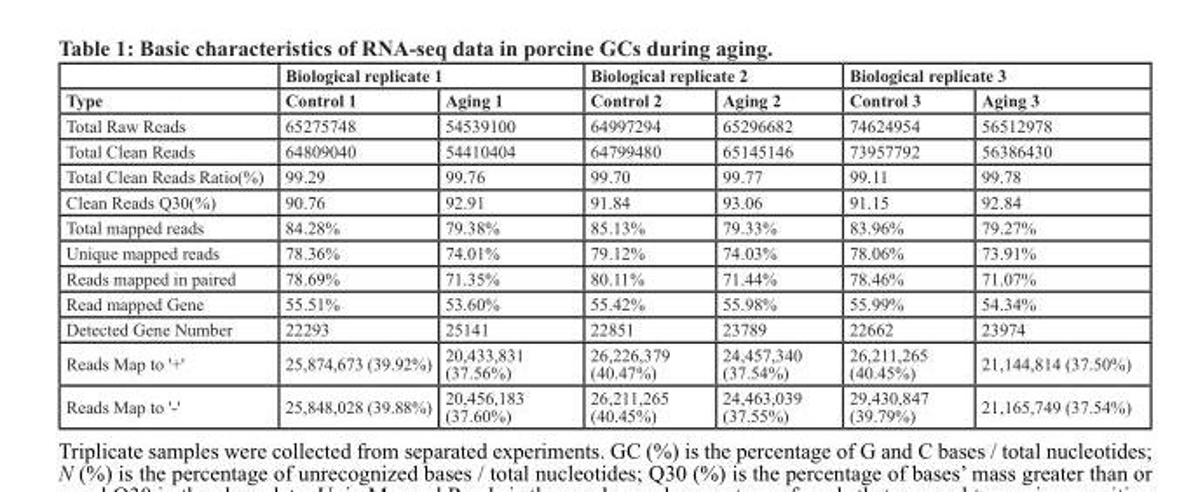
<table><thead><tr><td rowspan="2">Type</td><td colspan="2">Biological replicate 1</td><td colspan="2">Biological replicate 2</td><td colspan="2">Biological replicate 3</td></tr><tr><td>Control 1</td><td>Aging 1</td><td>Control 2</td><td>Aging 2</td><td>Control 3</td><td>Aging 3</td></tr></thead><tbody><tr><td>Total Raw Reads</td><td>65275748</td><td>54539100</td><td>64997294</td><td>65296682</td><td>74624954</td><td>56512978</td></tr><tr><td>Total Clean Reads</td><td>64809040</td><td>54410404</td><td>64799480</td><td>65145146</td><td>73957792</td><td>56386430</td></tr><tr><td>Total Clean Reads Ratio(%)</td><td>99.29</td><td>99.76</td><td>99.70</td><td>99.77</td><td>99.11</td><td>99.78</td></tr><tr><td>Clean Reads Q30(%)</td><td>90.76</td><td>92.91</td><td>91.84</td><td>93.06</td><td>91.15</td><td>92.84</td></tr><tr><td>Total mapped reads</td><td>84.28%</td><td>79.38%</td><td>85.13%</td><td>79.33%</td><td>83.96%</td><td>79.27%</td></tr><tr><td>Unique mapped reads</td><td>78.36%</td><td>74.01%</td><td>79.12%</td><td>74.03%</td><td>78.06%</td><td>73.91%</td></tr><tr><td>Reads mapped in paired</td><td>78.69%</td><td>71.35%</td><td>80.11%</td><td>71.44%</td><td>78.46%</td><td>71.07%</td></tr><tr><td>Read mapped Gene</td><td>55.51%</td><td>53.60%</td><td>55.42%</td><td>55.98%</td><td>55.99%</td><td>54.34%</td></tr><tr><td>Detected Gene Number</td><td>22293</td><td>25141</td><td>22851</td><td>23789</td><td>22662</td><td>23974</td></tr><tr><td>Reads Map to &#x27;+&#x27;</td><td>25,874,673 (39.92%)</td><td>20,433,831 (37.56%)</td><td>26,226,379 (40.47%)</td><td>24,457,340 (37.54%)</td><td>26,211,265 (40.45%)</td><td>21,144,814 (37.50%)</td></tr><tr><td>Reads Map to &#x27;-&#x27;</td><td>25,848,028 (39.88%)</td><td>20,456,183 (37.60%)</td><td>26,211,265 (40.45%)</td><td>24,463,039 (37.55%)</td><td>29,430,847 (39.79%)</td><td>21,165,749 (37.54%)</td></tr></tbody></table>